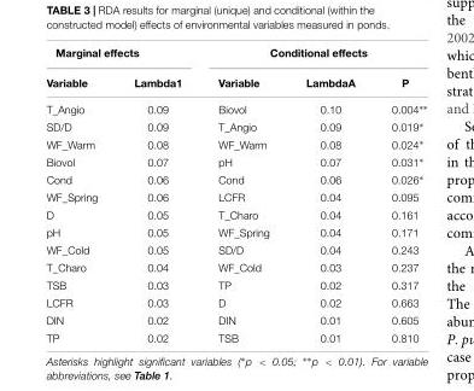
<table><thead><tr><td colspan="2">Marginal effects</td><td colspan="3">Conditional effects</td></tr><tr><td>Variable</td><td>Lambda1</td><td>Variable</td><td>LambdaA</td><td>P</td></tr></thead><tbody><tr><td>T_Angio</td><td>0.09</td><td>Biovol</td><td>0.10</td><td>0.004∗∗</td></tr><tr><td>SD/D</td><td>0.09</td><td>T_Angio</td><td>0.09</td><td>0.019∗</td></tr><tr><td>WF_Warm</td><td>0.08</td><td>WF_Warm</td><td>0.08</td><td>0.024∗</td></tr><tr><td>Biovol</td><td>0.07</td><td>pH</td><td>0.07</td><td>0.031∗</td></tr><tr><td>Cond</td><td>0.06</td><td>Cond</td><td>0.06</td><td>0.026∗</td></tr><tr><td>WF_Spring</td><td>0.06</td><td>LCFR</td><td>0.04</td><td>0.095</td></tr><tr><td>D</td><td>0.05</td><td>T_Charo</td><td>0.04</td><td>0.161</td></tr><tr><td>pH</td><td>0.05</td><td>WF_Spring</td><td>0.04</td><td>0.171</td></tr><tr><td>WF_Cold</td><td>0.05</td><td>SD/D</td><td>0.04</td><td>0.243</td></tr><tr><td>T_Charo</td><td>0.04</td><td>WF_Cold</td><td>0.03</td><td>0.237</td></tr><tr><td>TSB</td><td>0.03</td><td>TP</td><td>0.02</td><td>0.317</td></tr><tr><td>LCFR</td><td>0.03</td><td>D</td><td>0.02</td><td>0.663</td></tr><tr><td>DIN</td><td>0.02</td><td>DIN</td><td>0.01</td><td>0.605</td></tr><tr><td>TP</td><td>0.02</td><td>TSB</td><td>0.01</td><td>0.810</td></tr></tbody></table>